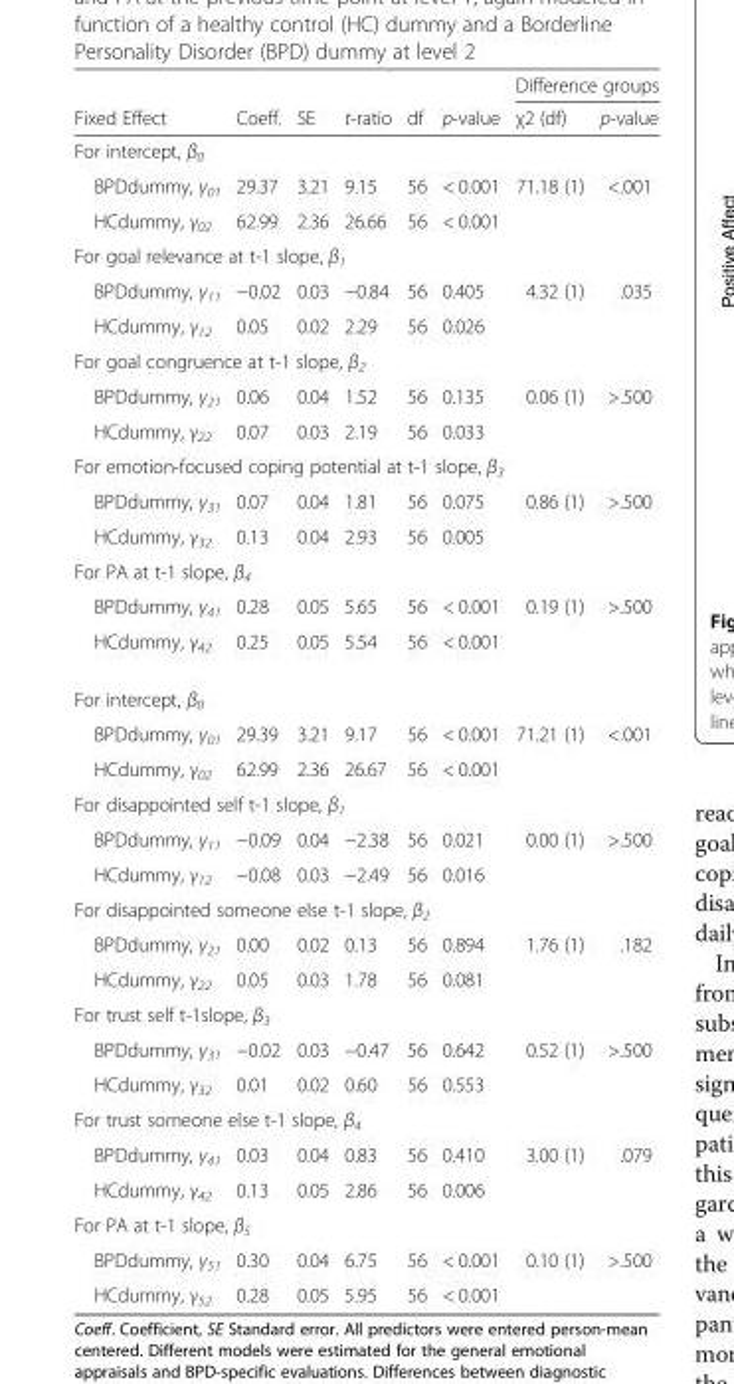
<table><thead><tr><td rowspan="2">Fixed Effect</td><td rowspan="2">Coeff.</td><td rowspan="2">SE</td><td rowspan="2">t-ratio</td><td rowspan="2">df</td><td rowspan="2">p-value</td><td colspan="2">Difference groups</td></tr><tr><td>χ2 (df)</td><td>p-value</td></tr></thead><tbody><tr><td colspan="8">For intercept, β<sub>0</sub></td></tr><tr><td>BPDdummy, γ<sub>01</sub></td><td>29.37</td><td>3.21</td><td>9.15</td><td>56</td><td>&lt; 0.001</td><td>71.18 (1)</td><td>&lt;.001</td></tr><tr><td>HCdummy, γ<sub>02</sub></td><td>62.99</td><td>2.36</td><td>26.66</td><td>56</td><td>&lt; 0.001</td><td></td><td></td></tr><tr><td colspan="8">For goal relevance at t-1 slope, β<sub>1</sub></td></tr><tr><td>BPDdummy, γ<sub>11</sub></td><td>−0.02</td><td>0.03</td><td>−0.84</td><td>56</td><td>0.405</td><td>4.32 (1)</td><td>.035</td></tr><tr><td>HCdummy, γ<sub>12</sub></td><td>0.05</td><td>0.02</td><td>2.29</td><td>56</td><td>0.026</td><td></td><td></td></tr><tr><td colspan="8">For goal congruence at t-1 slope, β<sub>2</sub></td></tr><tr><td>BPDdummy, γ<sub>21</sub></td><td>0.06</td><td>0.04</td><td>1.52</td><td>56</td><td>0.135</td><td>0.06 (1)</td><td>&gt;.500</td></tr><tr><td>HCdummy, γ<sub>22</sub></td><td>0.07</td><td>0.03</td><td>2.19</td><td>56</td><td>0.033</td><td></td><td></td></tr><tr><td colspan="8">For emotion-focused coping potential at t-1 slope, β<sub>3</sub></td></tr><tr><td>BPDdummy, γ<sub>31</sub></td><td>0.07</td><td>0.04</td><td>1.81</td><td>56</td><td>0.075</td><td>0.86 (1)</td><td>&gt;.500</td></tr><tr><td>HCdummy, γ<sub>32</sub></td><td>0.13</td><td>0.04</td><td>2.93</td><td>56</td><td>0.005</td><td></td><td></td></tr><tr><td colspan="8">For PA at t-1 slope, β<sub>4</sub></td></tr><tr><td>BPDdummy, γ<sub>41</sub></td><td>0.28</td><td>0.05</td><td>5.65</td><td>56</td><td>&lt; 0.001</td><td>0.19 (1)</td><td>&gt;.500</td></tr><tr><td>HCdummy, γ<sub>42</sub></td><td>0.25</td><td>0.05</td><td>5.54</td><td>56</td><td>&lt; 0.001</td><td></td><td></td></tr><tr><td colspan="8">For intercept, β<sub>0</sub></td></tr><tr><td>BPDdummy, γ<sub>01</sub></td><td>29.39</td><td>3.21</td><td>9.17</td><td>56</td><td>&lt; 0.001</td><td>71.21 (1)</td><td>&lt;.001</td></tr><tr><td>HCdummy, γ<sub>02</sub></td><td>62.99</td><td>2.36</td><td>26.67</td><td>56</td><td>&lt; 0.001</td><td></td><td></td></tr><tr><td colspan="8">For disappointed self t-1 slope, β<sub>1</sub></td></tr><tr><td>BPDdummy, γ<sub>11</sub></td><td>−0.09</td><td>0.04</td><td>−2.38</td><td>56</td><td>0.021</td><td>0.00 (1)</td><td>&gt;.500</td></tr><tr><td>HCdummy, γ<sub>12</sub></td><td>−0.08</td><td>0.03</td><td>−2.49</td><td>56</td><td>0.016</td><td></td><td></td></tr><tr><td colspan="8">For disappointed someone else t-1 slope, β<sub>2</sub></td></tr><tr><td>BPDdummy, γ<sub>21</sub></td><td>0.00</td><td>0.02</td><td>0.13</td><td>56</td><td>0.894</td><td>1.76 (1)</td><td>.182</td></tr><tr><td>HCdummy, γ<sub>22</sub></td><td>0.05</td><td>0.03</td><td>1.78</td><td>56</td><td>0.081</td><td></td><td></td></tr><tr><td colspan="8">For trust self t-1slope, β<sub>3</sub></td></tr><tr><td>BPDdummy, γ<sub>31</sub></td><td>−0.02</td><td>0.03</td><td>−0.47</td><td>56</td><td>0.642</td><td>0.52 (1)</td><td>&gt;.500</td></tr><tr><td>HCdummy, γ<sub>32</sub></td><td>0.01</td><td>0.02</td><td>0.60</td><td>56</td><td>0.553</td><td></td><td></td></tr><tr><td colspan="8">For trust someone else t-1 slope, β<sub>4</sub></td></tr><tr><td>BPDdummy, γ<sub>41</sub></td><td>0.03</td><td>0.04</td><td>0.83</td><td>56</td><td>0.410</td><td>3.00 (1)</td><td>.079</td></tr><tr><td>HCdummy, γ<sub>42</sub></td><td>0.13</td><td>0.05</td><td>2.86</td><td>56</td><td>0.006</td><td></td><td></td></tr><tr><td colspan="8">For PA at t-1 slope, β<sub>5</sub></td></tr><tr><td>BPDdummy, γ<sub>51</sub></td><td>0.30</td><td>0.04</td><td>6.75</td><td>56</td><td>&lt; 0.001</td><td>0.10 (1)</td><td>&gt;.500</td></tr><tr><td>HCdummy, γ<sub>52</sub></td><td>0.28</td><td>0.05</td><td>5.95</td><td>56</td><td>&lt; 0.001</td><td></td><td></td></tr></tbody></table>